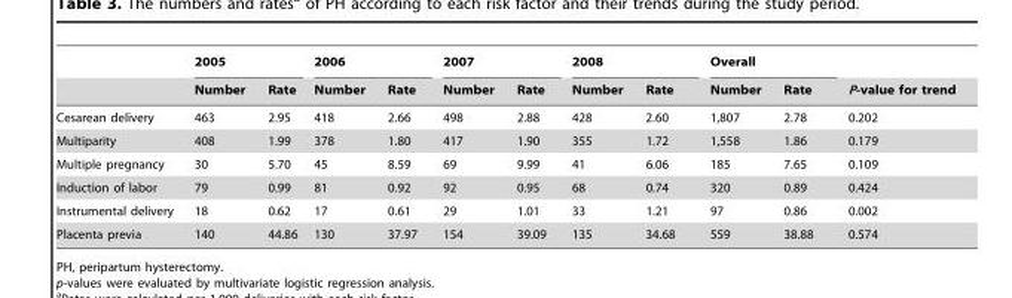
<table><thead><tr><td rowspan="2"></td><td colspan="2">2005</td><td colspan="2">2006</td><td colspan="2">2007</td><td colspan="2">2008</td><td colspan="2">Overall</td><td rowspan="2">P-value for trend</td></tr><tr><td>Number</td><td>Rate</td><td>Number</td><td>Rate</td><td>Number</td><td>Rate</td><td>Number</td><td>Rate</td><td>Number</td><td>Rate</td></tr></thead><tbody><tr><td>Cesarean delivery</td><td>463</td><td>2.95</td><td>418</td><td>2.66</td><td>498</td><td>2.88</td><td>428</td><td>2.60</td><td>1,807</td><td>2.78</td><td>0.202</td></tr><tr><td>Multiparity</td><td>408</td><td>1.99</td><td>378</td><td>1.80</td><td>417</td><td>1.90</td><td>355</td><td>1.72</td><td>1,558</td><td>1.86</td><td>0.179</td></tr><tr><td>Multiple pregnancy</td><td>30</td><td>5.70</td><td>45</td><td>8.59</td><td>69</td><td>9.99</td><td>41</td><td>6.06</td><td>185</td><td>7.65</td><td>0.109</td></tr><tr><td>Induction of labor</td><td>79</td><td>0.99</td><td>81</td><td>0.92</td><td>92</td><td>0.95</td><td>68</td><td>0.74</td><td>320</td><td>0.89</td><td>0.424</td></tr><tr><td>Instrumental delivery</td><td>18</td><td>0.62</td><td>17</td><td>0.61</td><td>29</td><td>1.01</td><td>33</td><td>1.21</td><td>97</td><td>0.86</td><td>0.002</td></tr><tr><td>Placenta previa</td><td>140</td><td>44.86</td><td>130</td><td>37.97</td><td>154</td><td>39.09</td><td>135</td><td>34.68</td><td>559</td><td>38.88</td><td>0.574</td></tr></tbody></table>